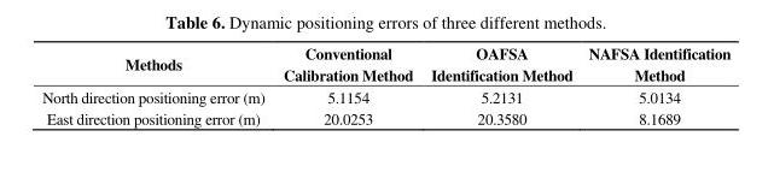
<table><thead><tr><td>Methods</td><td>Conventional Calibration Method</td><td>OAFSA Identification Method</td><td>NAFSA Identification Method</td></tr></thead><tbody><tr><td>North direction positioning error (m)</td><td>5.1154</td><td>5.2131</td><td>5.0134</td></tr><tr><td>East direction positioning error (m)</td><td>20.0253</td><td>20.3580</td><td>8.1689</td></tr></tbody></table>